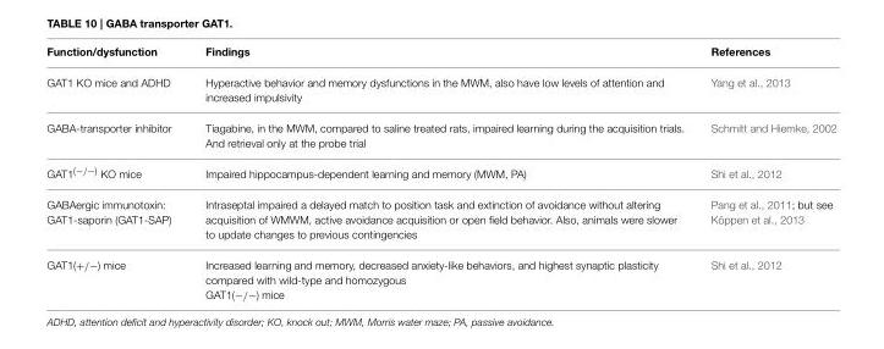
<table><thead><tr><td>Function/dysfunction</td><td>Findings</td><td>References</td></tr></thead><tbody><tr><td>GAT1 KO mice and ADHD</td><td>Hyperactive behavior and memory dysfunctions in the MWM, also have low levels of attention and increased impulsivity</td><td>Yang et al., 2013</td></tr><tr><td>GABA-transporter inhibitor</td><td>Tiagabine, in the MWM, compared to saline treated rats, impaired learning during the acquisition trials. And retrieval only at the probe trial</td><td>Schmitt and Hiemke, 2002</td></tr><tr><td>GAT1<sup>(−/−)</sup> KO mice</td><td>Impaired hippocampus-dependent learning and memory (MWM, PA)</td><td>Shi et al., 2012</td></tr><tr><td>GABAergic immunotoxin: GAT1-saporin (GAT1-SAP)</td><td>Intraseptal impaired a delayed match to position task and extinction of avoidance without altering acquisition of WMWM, active avoidance acquisition or open field behavior. Also, animals were slower to update changes to previous contingencies</td><td>Pang et al., 2011; but see Köppen et al., 2013</td></tr><tr><td>GAT1(+/−) mice</td><td>Increased learning and memory, decreased anxiety-like behaviors, and highest synaptic plasticity compared with wild-type and homozygous GAT1(−/−) mice</td><td>Shi et al., 2012</td></tr></tbody></table>